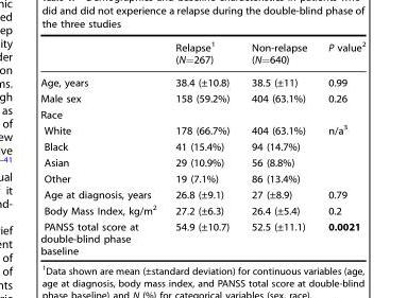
<table><thead><tr><td></td><td>Relapse<sup>1</sup> (N=267)</td><td>Non-relapse (N=640)</td><td>P value<sup>2</sup></td></tr></thead><tbody><tr><td>Age, years</td><td>38.4 (±10.8)</td><td>38.5 (±11)</td><td>0.99</td></tr><tr><td>Male sex</td><td>158 (59.2%)</td><td>404 (63.1%)</td><td>0.26</td></tr><tr><td colspan="4">Race</td></tr><tr><td>White</td><td>178 (66.7%)</td><td>404 (63.1%)</td><td rowspan="4">n/a<sup>3</sup></td></tr><tr><td>Black</td><td>41 (15.4%)</td><td>94 (14.7%)</td></tr><tr><td>Asian</td><td>29 (10.9%)</td><td>56 (8.8%)</td></tr><tr><td>Other</td><td>19 (7.1%)</td><td>86 (13.4%)</td></tr><tr><td>Age at diagnosis, years</td><td>26.8 (±9.1)</td><td>27 (±8.9)</td><td>0.79</td></tr><tr><td>Body Mass Index, kg/m<sup>2</sup></td><td>27.2 (±6.3)</td><td>26.4 (±5.4)</td><td>0.2</td></tr><tr><td>PANSS total score at double-blind phase baseline</td><td>54.9 (±10.7)</td><td>52.5 (±11.1)</td><td>0.0021</td></tr></tbody></table>